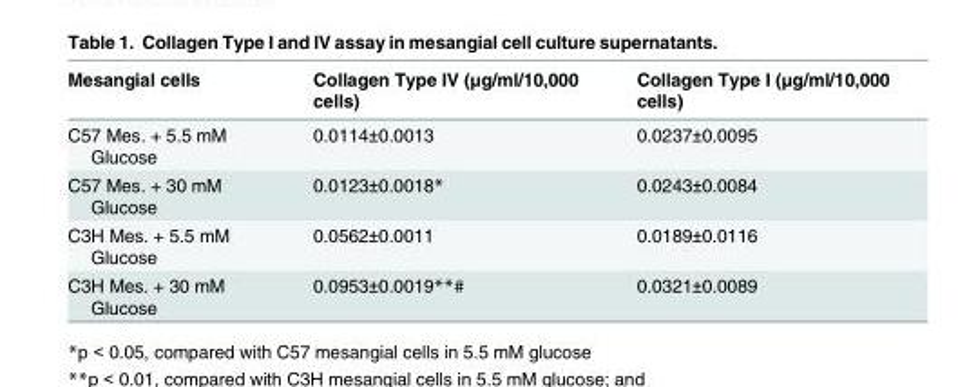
<table><thead><tr><td>Mesangial cells</td><td>Collagen Type IV (μg/ml/10,000 cells)</td><td>Collagen Type I (μg/ml/10,000 cells)</td></tr></thead><tbody><tr><td>C57 Mes. + 5.5 mM Glucose</td><td>0.0114±0.0013</td><td>0.0237±0.0095</td></tr><tr><td>C57 Mes. + 30 mM Glucose</td><td>0.0123±0.0018*</td><td>0.0243±0.0084</td></tr><tr><td>C3H Mes. + 5.5 mM Glucose</td><td>0.0562±0.0011</td><td>0.0189±0.0116</td></tr><tr><td>C3H Mes. + 30 mM Glucose</td><td>0.0953±0.0019**#</td><td>0.0321±0.0089</td></tr></tbody></table>